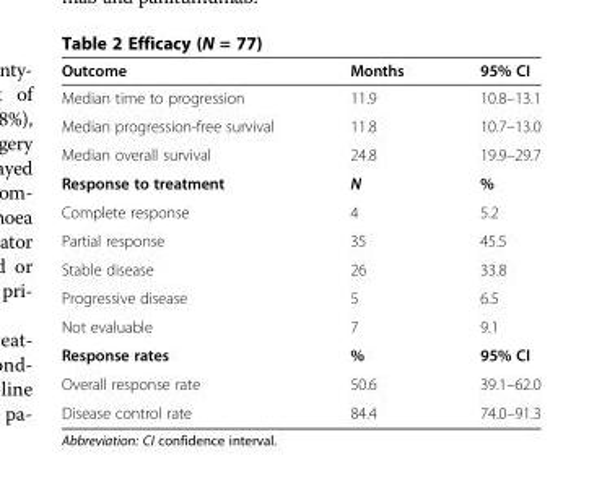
<table><thead><tr><td>Outcome</td><td>Months</td><td>95% CI</td></tr></thead><tbody><tr><td>Median time to progression</td><td>11.9</td><td>10.8–13.1</td></tr><tr><td>Median progression-free survival</td><td>11.8</td><td>10.7–13.0</td></tr><tr><td>Median overall survival</td><td>24.8</td><td>19.9–29.7</td></tr><tr><td>Response to treatment</td><td>N</td><td>%</td></tr><tr><td>Complete response</td><td>4</td><td>5.2</td></tr><tr><td>Partial response</td><td>35</td><td>45.5</td></tr><tr><td>Stable disease</td><td>26</td><td>33.8</td></tr><tr><td>Progressive disease</td><td>5</td><td>6.5</td></tr><tr><td>Not evaluable</td><td>7</td><td>9.1</td></tr><tr><td>Response rates</td><td>%</td><td>95% CI</td></tr><tr><td>Overall response rate</td><td>50.6</td><td>39.1–62.0</td></tr><tr><td>Disease control rate</td><td>84.4</td><td>74.0–91.3</td></tr></tbody></table>